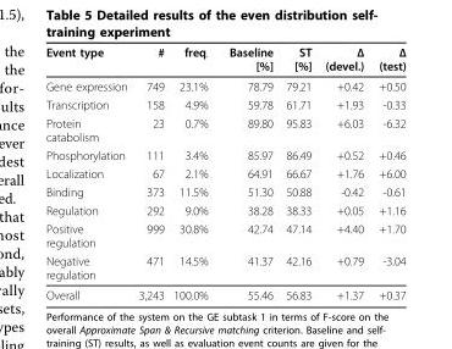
<table><thead><tr><td>Event type</td><td>#</td><td>freq.</td><td>Baseline [%]</td><td>ST [%]</td><td>Δ (devel.)</td><td>Δ (test)</td></tr></thead><tbody><tr><td>Gene expression</td><td>749</td><td>23.1%</td><td>78.79</td><td>79.21</td><td>+0.42</td><td>+0.50</td></tr><tr><td>Transcription</td><td>158</td><td>4.9%</td><td>59.78</td><td>61.71</td><td>+1.93</td><td>-0.33</td></tr><tr><td>Protein catabolism</td><td>23</td><td>0.7%</td><td>89.80</td><td>95.83</td><td>+6.03</td><td>-6.32</td></tr><tr><td>Phosphorylation</td><td>111</td><td>3.4%</td><td>85.97</td><td>86.49</td><td>+0.52</td><td>+0.46</td></tr><tr><td>Localization</td><td>67</td><td>2.1%</td><td>64.91</td><td>66.67</td><td>+1.76</td><td>+6.00</td></tr><tr><td>Binding</td><td>373</td><td>11.5%</td><td>51.30</td><td>50.88</td><td>-0.42</td><td>-0.61</td></tr><tr><td>Regulation</td><td>292</td><td>9.0%</td><td>38.28</td><td>38.33</td><td>+0.05</td><td>+1.16</td></tr><tr><td>Positive regulation</td><td>999</td><td>30.8%</td><td>42.74</td><td>47.14</td><td>+4.40</td><td>+1.70</td></tr><tr><td>Negative regulation</td><td>471</td><td>14.5%</td><td>41.37</td><td>42.16</td><td>+0.79</td><td>-3.04</td></tr><tr><td>Overall</td><td>3,243</td><td>100.0%</td><td>55.46</td><td>56.83</td><td>+1.37</td><td>+0.37</td></tr></tbody></table>